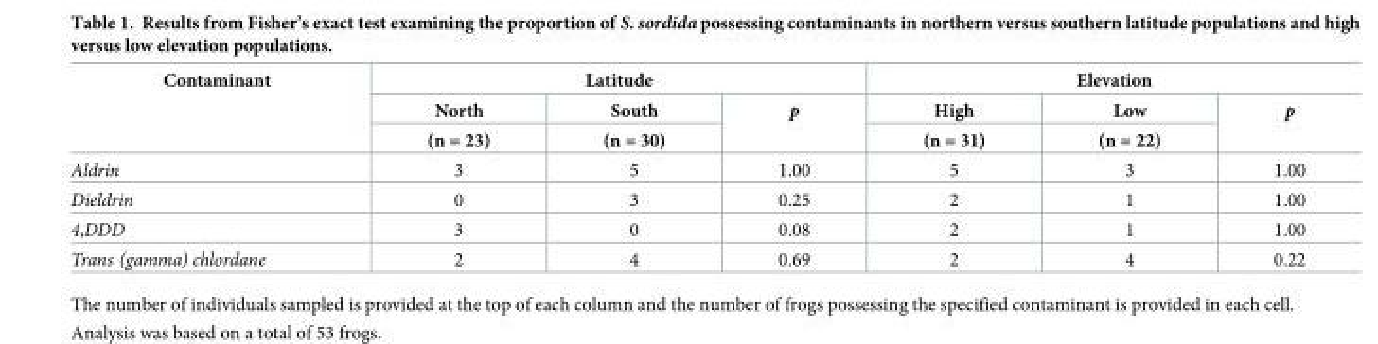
<table><thead><tr><td rowspan="3">Contaminant</td><td colspan="3">Latitude</td><td colspan="3">Elevation</td></tr><tr><td rowspan="2">North (n = 23)</td><td rowspan="2">South (n = 30)</td><td rowspan="2">p</td><td rowspan="2">High (n = 31)</td><td rowspan="2">Low (n = 22)</td><td rowspan="2">p</td></tr><tr></tr></thead><tbody><tr><td>Aldrin</td><td>3</td><td>5</td><td>1.00</td><td>5</td><td>3</td><td>1.00</td></tr><tr><td>Dieldrin</td><td>0</td><td>3</td><td>0.25</td><td>2</td><td>1</td><td>1.00</td></tr><tr><td>4,DDD</td><td>3</td><td>0</td><td>0.08</td><td>2</td><td>1</td><td>1.00</td></tr><tr><td>Trans (gamma) chlordane</td><td>2</td><td>4</td><td>0.69</td><td>2</td><td>4</td><td>0.22</td></tr></tbody></table>